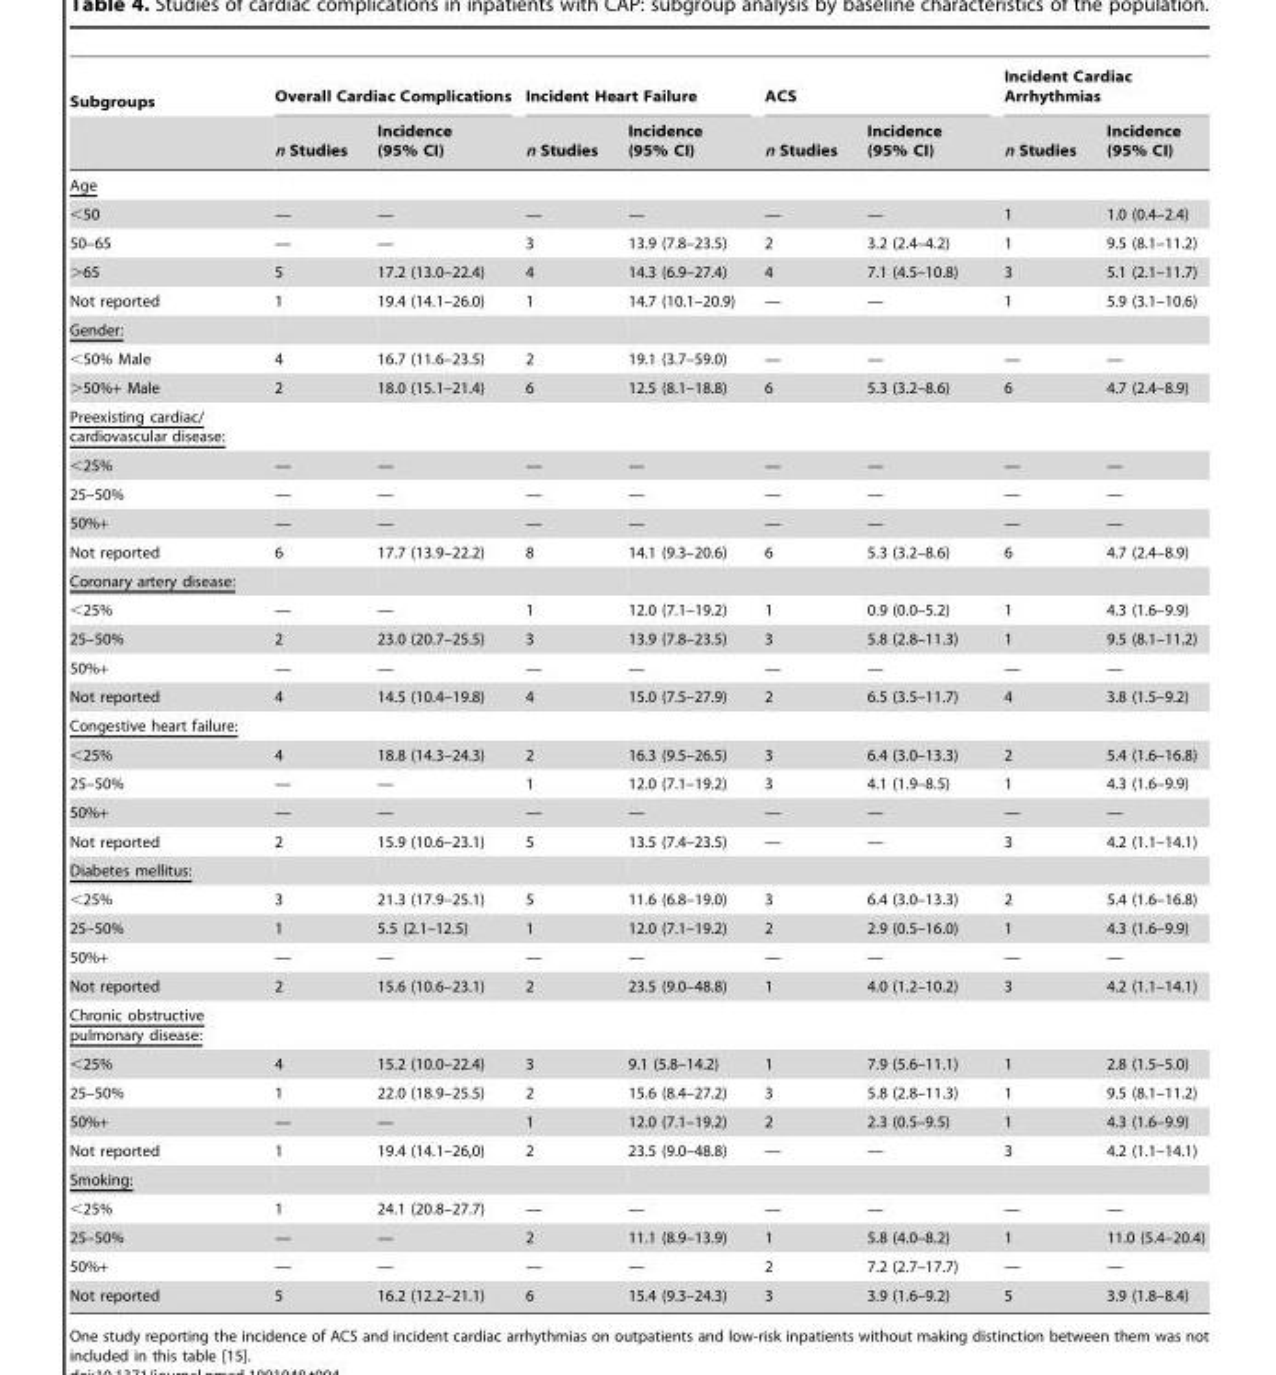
<table><thead><tr><td rowspan="2">Subgroups</td><td colspan="2">Overall Cardiac Complications</td><td colspan="2">Incident Heart Failure</td><td colspan="2">ACS</td><td colspan="2">Incident Cardiac Arrhythmias</td></tr><tr><td>n Studies</td><td>Incidence (95% CI)</td><td>n Studies</td><td>Incidence (95% CI)</td><td>n Studies</td><td>Incidence (95% CI)</td><td>n Studies</td><td>Incidence (95% CI)</td></tr></thead><tbody><tr><td colspan="9">Age</td></tr><tr><td>&lt;50</td><td>—</td><td>—</td><td>—</td><td>—</td><td>—</td><td>—</td><td>1</td><td>1.0 (0.4–2.4)</td></tr><tr><td>50–65</td><td>—</td><td>—</td><td>3</td><td>13.9 (7.8–23.5)</td><td>2</td><td>3.2 (2.4–4.2)</td><td>1</td><td>9.5 (8.1–11.2)</td></tr><tr><td>&gt;65</td><td>5</td><td>17.2 (13.0–22.4)</td><td>4</td><td>14.3 (6.9–27.4)</td><td>4</td><td>7.1 (4.5–10.8)</td><td>3</td><td>5.1 (2.1–11.7)</td></tr><tr><td>Not reported</td><td>1</td><td>19.4 (14.1–26.0)</td><td>1</td><td>14.7 (10.1–20.9)</td><td>—</td><td>—</td><td>1</td><td>5.9 (3.1–10.6)</td></tr><tr><td colspan="9">Gender:</td></tr><tr><td>&lt;50% Male</td><td>4</td><td>16.7 (11.6–23.5)</td><td>2</td><td>19.1 (3.7–59.0)</td><td>—</td><td>—</td><td>—</td><td>—</td></tr><tr><td>&gt;50%+ Male</td><td>2</td><td>18.0 (15.1–21.4)</td><td>6</td><td>12.5 (8.1–18.8)</td><td>6</td><td>5.3 (3.2–8.6)</td><td>6</td><td>4.7 (2.4–8.9)</td></tr><tr><td colspan="9">Preexisting cardiac/ cardiovascular disease:</td></tr><tr><td>&lt;25%</td><td>—</td><td>—</td><td>—</td><td>—</td><td>—</td><td>—</td><td>—</td><td>—</td></tr><tr><td>25–50%</td><td>—</td><td>—</td><td>—</td><td>—</td><td>—</td><td>—</td><td>—</td><td>—</td></tr><tr><td>50%+</td><td>—</td><td>—</td><td>—</td><td>—</td><td>—</td><td>—</td><td>—</td><td>—</td></tr><tr><td>Not reported</td><td>6</td><td>17.7 (13.9–22.2)</td><td>8</td><td>14.1 (9.3–20.6)</td><td>6</td><td>5.3 (3.2–8.6)</td><td>6</td><td>4.7 (2.4–8.9)</td></tr><tr><td colspan="9">Coronary artery disease:</td></tr><tr><td>&lt;25%</td><td>—</td><td>—</td><td>1</td><td>12.0 (7.1–19.2)</td><td>1</td><td>0.9 (0.0–5.2)</td><td>1</td><td>4.3 (1.6–9.9)</td></tr><tr><td>25–50%</td><td>2</td><td>23.0 (20.7–25.5)</td><td>3</td><td>13.9 (7.8–23.5)</td><td>3</td><td>5.8 (2.8–11.3)</td><td>1</td><td>9.5 (8.1–11.2)</td></tr><tr><td>50%+</td><td>—</td><td>—</td><td>—</td><td>—</td><td>—</td><td>—</td><td>—</td><td>—</td></tr><tr><td>Not reported</td><td>4</td><td>14.5 (10.4–19.8)</td><td>4</td><td>15.0 (7.5–27.9)</td><td>2</td><td>6.5 (3.5–11.7)</td><td>4</td><td>3.8 (1.5–9.2)</td></tr><tr><td colspan="9">Congestive heart failure:</td></tr><tr><td>&lt;25%</td><td>4</td><td>18.8 (14.3–24.3)</td><td>2</td><td>16.3 (9.5–26.5)</td><td>3</td><td>6.4 (3.0–13.3)</td><td>2</td><td>5.4 (1.6–16.8)</td></tr><tr><td>25–50%</td><td>—</td><td>—</td><td>1</td><td>12.0 (7.1–19.2)</td><td>3</td><td>4.1 (1.9–8.5)</td><td>1</td><td>4.3 (1.6–9.9)</td></tr><tr><td>50%+</td><td>—</td><td>—</td><td>—</td><td>—</td><td>—</td><td>—</td><td>—</td><td>—</td></tr><tr><td>Not reported</td><td>2</td><td>15.9 (10.6–23.1)</td><td>5</td><td>13.5 (7.4–23.5)</td><td>—</td><td>—</td><td>3</td><td>4.2 (1.1–14.1)</td></tr><tr><td colspan="9">Diabetes mellitus:</td></tr><tr><td>&lt;25%</td><td>3</td><td>21.3 (17.9–25.1)</td><td>5</td><td>11.6 (6.8–19.0)</td><td>3</td><td>6.4 (3.0–13.3)</td><td>2</td><td>5.4 (1.6–16.8)</td></tr><tr><td>25–50%</td><td>1</td><td>5.5 (2.1–12.5)</td><td>1</td><td>12.0 (7.1–19.2)</td><td>2</td><td>2.9 (0.5–16.0)</td><td>1</td><td>4.3 (1.6–9.9)</td></tr><tr><td>50%+</td><td>—</td><td>—</td><td>—</td><td>—</td><td>—</td><td>—</td><td>—</td><td>—</td></tr><tr><td>Not reported</td><td>2</td><td>15.6 (10.6–23.1)</td><td>2</td><td>23.5 (9.0–48.8)</td><td>1</td><td>4.0 (1.2–10.2)</td><td>3</td><td>4.2 (1.1–14.1)</td></tr><tr><td colspan="9">Chronic obstructive pulmonary disease:</td></tr><tr><td>&lt;25%</td><td>4</td><td>15.2 (10.0–22.4)</td><td>3</td><td>9.1 (5.8–14.2)</td><td>1</td><td>7.9 (5.6–11.1)</td><td>1</td><td>2.8 (1.5–5.0)</td></tr><tr><td>25–50%</td><td>1</td><td>22.0 (18.9–25.5)</td><td>2</td><td>15.6 (8.4–27.2)</td><td>3</td><td>5.8 (2.8–11.3)</td><td>1</td><td>9.5 (8.1–11.2)</td></tr><tr><td>50%+</td><td>—</td><td>—</td><td>1</td><td>12.0 (7.1–19.2)</td><td>2</td><td>2.3 (0.5–9.5)</td><td>1</td><td>4.3 (1.6–9.9)</td></tr><tr><td>Not reported</td><td>1</td><td>19.4 (14.1–26,0)</td><td>2</td><td>23.5 (9.0–48.8)</td><td>—</td><td>—</td><td>3</td><td>4.2 (1.1–14.1)</td></tr><tr><td colspan="9">Smoking:</td></tr><tr><td>&lt;25%</td><td>1</td><td>24.1 (20.8–27.7)</td><td>—</td><td>—</td><td>—</td><td>—</td><td>—</td><td>—</td></tr><tr><td>25–50%</td><td>—</td><td>—</td><td>2</td><td>11.1 (8.9–13.9)</td><td>1</td><td>5.8 (4.0–8.2)</td><td>1</td><td>11.0 (5.4–20.4)</td></tr><tr><td>50%+</td><td>—</td><td>—</td><td>—</td><td>—</td><td>2</td><td>7.2 (2.7–17.7)</td><td>—</td><td>—</td></tr><tr><td>Not reported</td><td>5</td><td>16.2 (12.2–21.1)</td><td>6</td><td>15.4 (9.3–24.3)</td><td>3</td><td>3.9 (1.6–9.2)</td><td>5</td><td>3.9 (1.8–8.4)</td></tr></tbody></table>